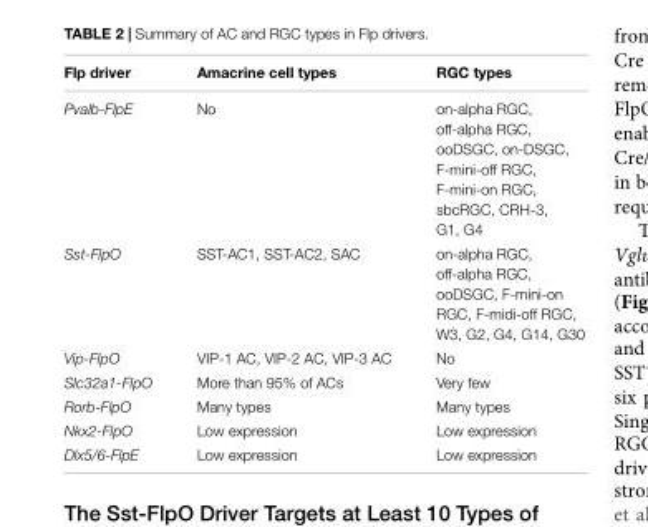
<table><thead><tr><td>Flp driver</td><td>Amacrine cell types</td><td>RGC types</td></tr></thead><tbody><tr><td>Pvalb-FlpE</td><td>No</td><td>on-alpha RGC, off-alpha RGC, ooDSGC, on-DSGC, F-mini-off RGC, F-mini-on RGC, sbcRGC, CRH-3, G1, G4</td></tr><tr><td>Sst-FlpO</td><td>SST-AC1, SST-AC2, SAC</td><td>on-alpha RGC, off-alpha RGC, ooDSGC, F-mini-on RGC, F-midi-off RGC, W3, G2, G4, G14, G30</td></tr><tr><td>Vip-FlpO</td><td>VIP-1 AC, VIP-2 AC, VIP-3 AC</td><td>No</td></tr><tr><td>Slc32a1-FlpO</td><td>More than 95% of ACs</td><td>Very few</td></tr><tr><td>Rorb-FlpO</td><td>Many types</td><td>Many types</td></tr><tr><td>Nkx2-FlpO</td><td>Low expression</td><td>Low expression</td></tr><tr><td>Dlx5/6-FlpE</td><td>Low expression</td><td>Low expression</td></tr></tbody></table>